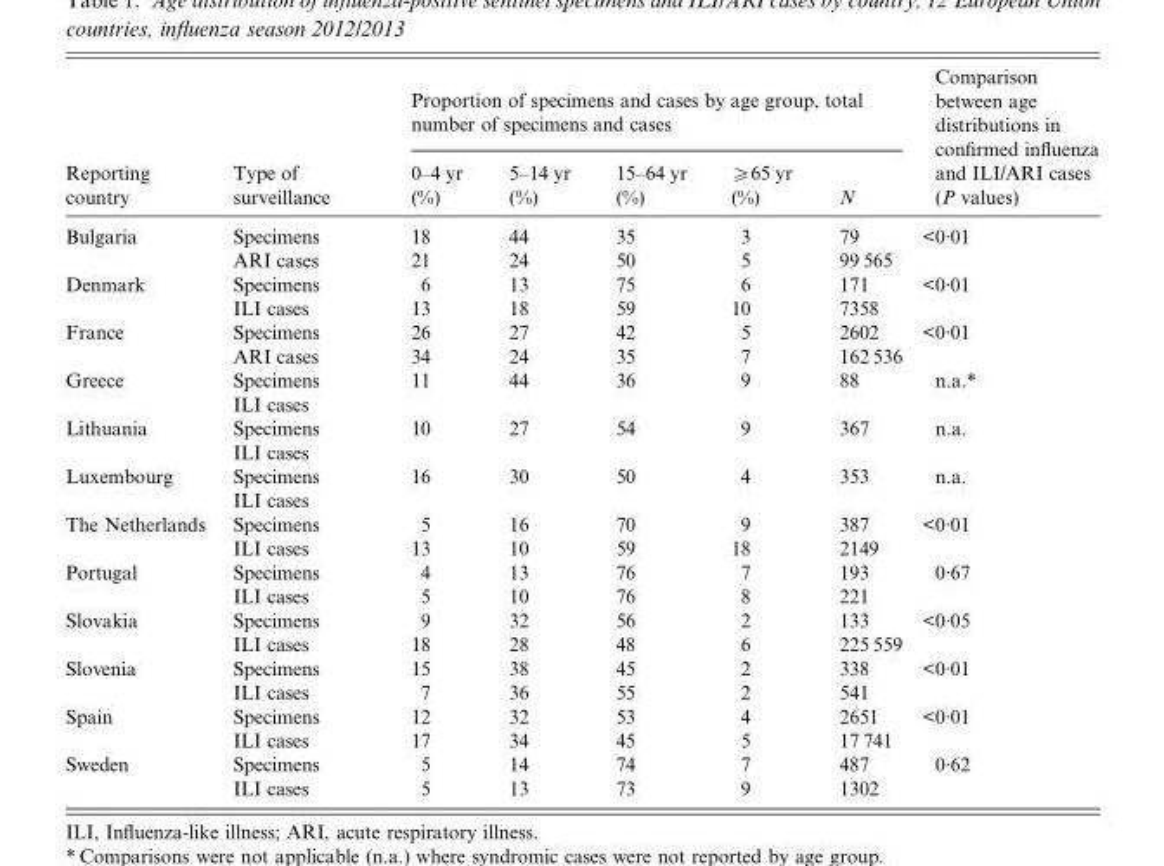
<table><thead><tr><td rowspan="2">Reporting country</td><td rowspan="2">Type of surveillance</td><td colspan="5">Proportion of specimens and cases by age group, total number of specimens and cases</td><td rowspan="2">Comparison between age distributions in confirmed influenza and ILI/ARI cases (P values)</td></tr><tr><td>0–4 yr (%)</td><td>5–14 yr (%)</td><td>15–64 yr (%)</td><td>⩾65 yr (%)</td><td>N</td></tr></thead><tbody><tr><td rowspan="2">Bulgaria</td><td>Specimens</td><td>18</td><td>44</td><td>35</td><td>3</td><td>79</td><td rowspan="2">&lt;0·01</td></tr><tr><td>ARI cases</td><td>21</td><td>24</td><td>50</td><td>5</td><td>99 565</td></tr><tr><td rowspan="2">Denmark</td><td>Specimens</td><td>6</td><td>13</td><td>75</td><td>6</td><td>171</td><td rowspan="2">&lt;0·01</td></tr><tr><td>ILI cases</td><td>13</td><td>18</td><td>59</td><td>10</td><td>7358</td></tr><tr><td rowspan="2">France</td><td>Specimens</td><td>26</td><td>27</td><td>42</td><td>5</td><td>2602</td><td rowspan="2">&lt;0·01</td></tr><tr><td>ARI cases</td><td>34</td><td>24</td><td>35</td><td>7</td><td>162 536</td></tr><tr><td rowspan="2">Greece</td><td>Specimens</td><td>11</td><td>44</td><td>36</td><td>9</td><td>88</td><td rowspan="2">n.a.*</td></tr><tr><td>ILI cases</td><td></td><td></td><td></td><td></td><td></td></tr><tr><td rowspan="2">Lithuania</td><td>Specimens</td><td>10</td><td>27</td><td>54</td><td>9</td><td>367</td><td rowspan="2">n.a.</td></tr><tr><td>ILI cases</td><td></td><td></td><td></td><td></td><td></td></tr><tr><td rowspan="2">Luxembourg</td><td>Specimens</td><td>16</td><td>30</td><td>50</td><td>4</td><td>353</td><td rowspan="2">n.a.</td></tr><tr><td>ILI cases</td><td></td><td></td><td></td><td></td><td></td></tr><tr><td rowspan="2">The Netherlands</td><td>Specimens</td><td>5</td><td>16</td><td>70</td><td>9</td><td>387</td><td rowspan="2">&lt;0·01</td></tr><tr><td>ILI cases</td><td>13</td><td>10</td><td>59</td><td>18</td><td>2149</td></tr><tr><td rowspan="2">Portugal</td><td>Specimens</td><td>4</td><td>13</td><td>76</td><td>7</td><td>193</td><td rowspan="2">0·67</td></tr><tr><td>ILI cases</td><td>5</td><td>10</td><td>76</td><td>8</td><td>221</td></tr><tr><td rowspan="2">Slovakia</td><td>Specimens</td><td>9</td><td>32</td><td>56</td><td>2</td><td>133</td><td rowspan="2">&lt;0·05</td></tr><tr><td>ILI cases</td><td>18</td><td>28</td><td>48</td><td>6</td><td>225 559</td></tr><tr><td rowspan="2">Slovenia</td><td>Specimens</td><td>15</td><td>38</td><td>45</td><td>2</td><td>338</td><td rowspan="2">&lt;0·01</td></tr><tr><td>ILI cases</td><td>7</td><td>36</td><td>55</td><td>2</td><td>541</td></tr><tr><td rowspan="2">Spain</td><td>Specimens</td><td>12</td><td>32</td><td>53</td><td>4</td><td>2651</td><td rowspan="2">&lt;0·01</td></tr><tr><td>ILI cases</td><td>17</td><td>34</td><td>45</td><td>5</td><td>17 741</td></tr><tr><td rowspan="2">Sweden</td><td>Specimens</td><td>5</td><td>14</td><td>74</td><td>7</td><td>487</td><td rowspan="2">0·62</td></tr><tr><td>ILI cases</td><td>5</td><td>13</td><td>73</td><td>9</td><td>1302</td></tr></tbody></table>